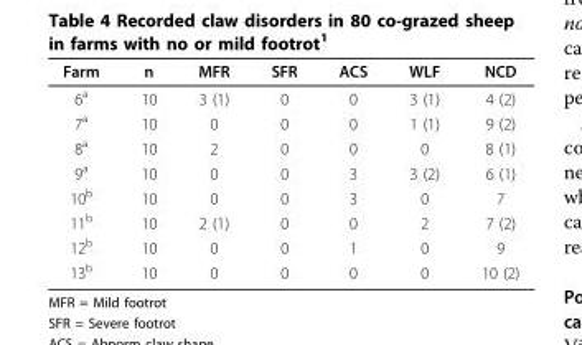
<table><thead><tr><td>Farm</td><td>n</td><td>MFR</td><td>SFR</td><td>ACS</td><td>WLF</td><td>NCD</td></tr></thead><tbody><tr><td>6<sup>a</sup></td><td>10</td><td>3 (1)</td><td>0</td><td>0</td><td>3 (1)</td><td>4 (2)</td></tr><tr><td>7<sup>a</sup></td><td>10</td><td>0</td><td>0</td><td>0</td><td>1 (1)</td><td>9 (2)</td></tr><tr><td>8<sup>a</sup></td><td>10</td><td>2</td><td>0</td><td>0</td><td>0</td><td>8 (1)</td></tr><tr><td>9<sup>a</sup></td><td>10</td><td>0</td><td>0</td><td>3</td><td>3 (2)</td><td>6 (1)</td></tr><tr><td>10<sup>b</sup></td><td>10</td><td>0</td><td>0</td><td>3</td><td>0</td><td>7</td></tr><tr><td>11<sup>b</sup></td><td>10</td><td>2 (1)</td><td>0</td><td>0</td><td>2</td><td>7 (2)</td></tr><tr><td>12<sup>b</sup></td><td>10</td><td>0</td><td>0</td><td>1</td><td>0</td><td>9</td></tr><tr><td>13<sup>b</sup></td><td>10</td><td>0</td><td>0</td><td>0</td><td>0</td><td>10 (2)</td></tr></tbody></table>